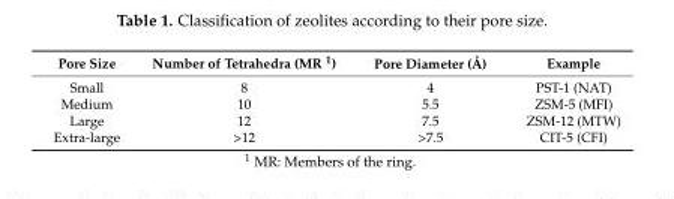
<table><thead><tr><td>Pore Size</td><td>Number of Tetrahedra (MR <sup>1</sup>)</td><td>Pore Diameter (Å)</td><td>Example</td></tr></thead><tbody><tr><td>Small</td><td>8</td><td>4</td><td>PST-1 (NAT)</td></tr><tr><td>Medium</td><td>10</td><td>5.5</td><td>ZSM-5 (MFI)</td></tr><tr><td>Large</td><td>12</td><td>7.5</td><td>ZSM-12 (MTW)</td></tr><tr><td>Extra-large</td><td>&gt;12</td><td>&gt;7.5</td><td>CIT-5 (CFI)</td></tr></tbody></table>